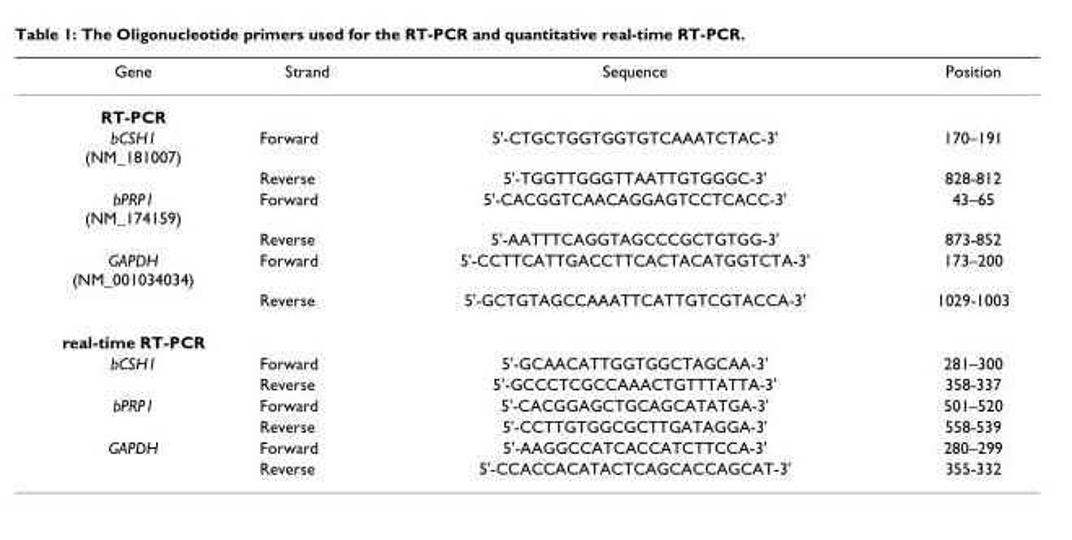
<table><thead><tr><td>Gene</td><td>Strand</td><td>Sequence</td><td>Position</td></tr></thead><tbody><tr><td colspan="4">RT-PCR</td></tr><tr><td rowspan="2">bCSH1 (NM_181007)</td><td>Forward</td><td>5&#x27;-CTGCTGGTGGTGTCAAATCTAC-3&#x27;</td><td>170–191</td></tr><tr><td>Reverse</td><td>5&#x27;-TGGTTGGGTTAATTGTGGGC-3&#x27;</td><td>828-812</td></tr><tr><td rowspan="2">bPRP1 (NM_174159)</td><td>Forward</td><td>5&#x27;-CACGGTCAACAGGAGTCCTCACC-3&#x27;</td><td>43–65</td></tr><tr><td>Reverse</td><td>5&#x27;-AATTTCAGGTAGCCCGCTGTGG-3&#x27;</td><td>873-852</td></tr><tr><td rowspan="2">GAPDH (NM_001034034)</td><td>Forward</td><td>5&#x27;-CCTTCATTGACCTTCACTACATGGTCTA-3&#x27;</td><td>173–200</td></tr><tr><td>Reverse</td><td>5&#x27;-GCTGTAGCCAAATTCATTGTCGTACCA-3&#x27;</td><td>1029-1003</td></tr><tr><td colspan="4">real-time RT-PCR</td></tr><tr><td rowspan="2">bCSH1</td><td>Forward</td><td>5&#x27;-GCAACATTGGTGGCTAGCAA-3&#x27;</td><td>281–300</td></tr><tr><td>Reverse</td><td>5&#x27;-GCCCTCGCCAAACTGTTTATTA-3&#x27;</td><td>358-337</td></tr><tr><td rowspan="2">bPRP1</td><td>Forward</td><td>5&#x27;-CACGGAGCTGCAGCATATGA-3&#x27;</td><td>501–520</td></tr><tr><td>Reverse</td><td>5&#x27;-CCTTGTGGCGCTTGATAGGA-3&#x27;</td><td>558-539</td></tr><tr><td rowspan="2">GAPDH</td><td>Forward</td><td>5&#x27;-AAGGCCATCACCATCTTCCA-3&#x27;</td><td>280–299</td></tr><tr><td>Reverse</td><td>5&#x27;-CCACCACATACTCAGCACCAGCAT-3&#x27;</td><td>355-332</td></tr></tbody></table>